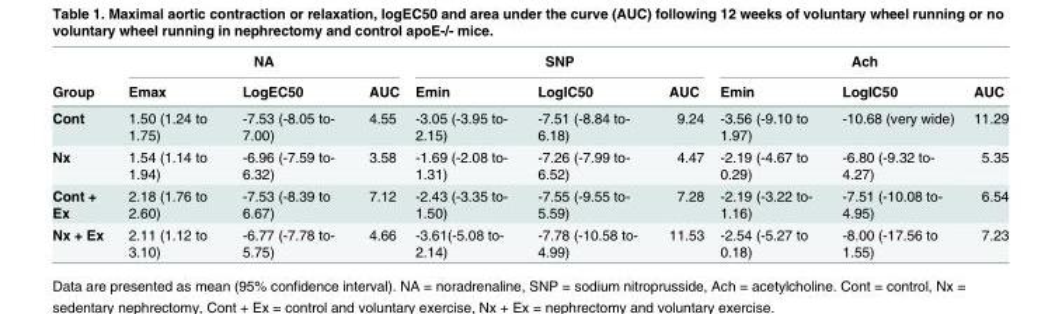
<table><thead><tr><td rowspan="2">Group</td><td colspan="3">NA</td><td colspan="3">SNP</td><td colspan="3">Ach</td></tr><tr><td>Emax</td><td>LogEC50</td><td>AUC</td><td>Emin</td><td>LogIC50</td><td>AUC</td><td>Emin</td><td>LogIC50</td><td>AUC</td></tr></thead><tbody><tr><td>Cont</td><td>1.50 (1.24 to 1.75)</td><td>-7.53 (-8.05 to- 7.00)</td><td>4.55</td><td>-3.05 (-3.95 to- 2.15)</td><td>-7.51 (-8.84 to- 6.18)</td><td>9.24</td><td>-3.56 (-9.10 to 1.97)</td><td>-10.68 (very wide)</td><td>11.29</td></tr><tr><td>Nx</td><td>1.54 (1.14 to 1.94)</td><td>-6.96 (-7.59 to- 6.32)</td><td>3.58</td><td>-1.69 (-2.08 to- 1.31)</td><td>-7.26 (-7.99 to- 6.52)</td><td>4.47</td><td>-2.19 (-4.67 to 0.29)</td><td>-6.80 (-9.32 to- 4.27)</td><td>5.35</td></tr><tr><td>Cont + Ex</td><td>2.18 (1.76 to 2.60)</td><td>-7.53 (-8.39 to 6.67)</td><td>7.12</td><td>-2.43 (-3.35 to- 1.50)</td><td>-7.55 (-9.55 to- 5.59)</td><td>7.28</td><td>-2.19 (-3.22 to- 1.16)</td><td>-7.51 (-10.08 to- 4.95)</td><td>6.54</td></tr><tr><td>Nx + Ex</td><td>2.11 (1.12 to 3.10)</td><td>-6.77 (-7.78 to- 5.75)</td><td>4.66</td><td>-3.61(-5.08 to- 2.14)</td><td>-7.78 (-10.58 to- 4.99)</td><td>11.53</td><td>-2.54 (-5.27 to 0.18)</td><td>-8.00 (-17.56 to 1.55)</td><td>7.23</td></tr></tbody></table>